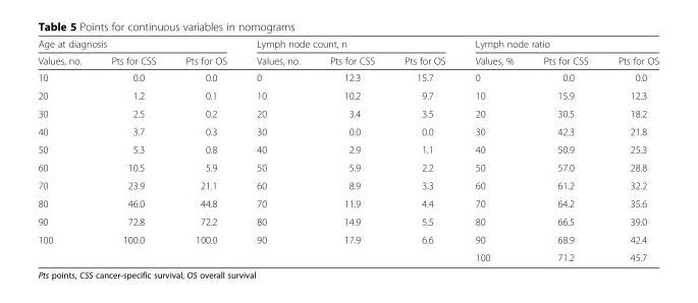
<table><thead><tr><td colspan="3">Age at diagnosis</td><td colspan="3">Lymph node count, n</td><td colspan="3">Lymph node ratio</td></tr><tr><td>Values, no.</td><td>Pts for CSS</td><td>Pts for OS</td><td>Values, no.</td><td>Pts for CSS</td><td>Pts for OS</td><td>Values, %</td><td>Pts for CSS</td><td>Pts for OS</td></tr></thead><tbody><tr><td>10</td><td>0.0</td><td>0.0</td><td>0</td><td>12.3</td><td>15.7</td><td>0</td><td>0.0</td><td>0.0</td></tr><tr><td>20</td><td>1.2</td><td>0.1</td><td>10</td><td>10.2</td><td>9.7</td><td>10</td><td>15.9</td><td>12.3</td></tr><tr><td>30</td><td>2.5</td><td>0.2</td><td>20</td><td>3.4</td><td>3.5</td><td>20</td><td>30.5</td><td>18.2</td></tr><tr><td>40</td><td>3.7</td><td>0.3</td><td>30</td><td>0.0</td><td>0.0</td><td>30</td><td>42.3</td><td>21.8</td></tr><tr><td>50</td><td>5.3</td><td>0.8</td><td>40</td><td>2.9</td><td>1.1</td><td>40</td><td>50.9</td><td>25.3</td></tr><tr><td>60</td><td>10.5</td><td>5.9</td><td>50</td><td>5.9</td><td>2.2</td><td>50</td><td>57.0</td><td>28.8</td></tr><tr><td>70</td><td>23.9</td><td>21.1</td><td>60</td><td>8.9</td><td>3.3</td><td>60</td><td>61.2</td><td>32.2</td></tr><tr><td>80</td><td>46.0</td><td>44.8</td><td>70</td><td>11.9</td><td>4.4</td><td>70</td><td>64.2</td><td>35.6</td></tr><tr><td>90</td><td>72.8</td><td>72.2</td><td>80</td><td>14.9</td><td>5.5</td><td>80</td><td>66.5</td><td>39.0</td></tr><tr><td rowspan="2">100</td><td>100.0</td><td>100.0</td><td>90</td><td>17.9</td><td>6.6</td><td>90</td><td>68.9</td><td>42.4</td></tr><tr><td></td><td></td><td></td><td></td><td></td><td>100</td><td>71.2</td><td>45.7</td></tr></tbody></table>